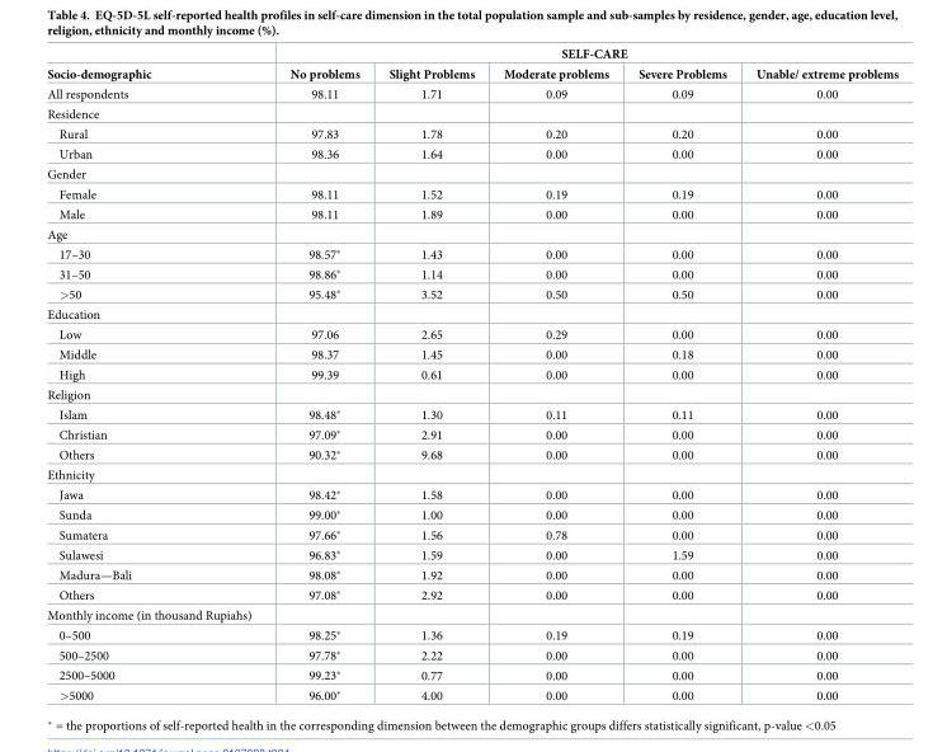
<table><thead><tr><td rowspan="2">Socio-demographic</td><td colspan="5">SELF-CARE</td></tr><tr><td>No problems</td><td>Slight Problems</td><td>Moderate problems</td><td>Severe Problems</td><td>Unable/ extreme problems</td></tr></thead><tbody><tr><td>All respondents</td><td>98.11</td><td>1.71</td><td>0.09</td><td>0.09</td><td>0.00</td></tr><tr><td colspan="6">Residence</td></tr><tr><td>Rural</td><td>97.83</td><td>1.78</td><td>0.20</td><td>0.20</td><td>0.00</td></tr><tr><td>Urban</td><td>98.36</td><td>1.64</td><td>0.00</td><td>0.00</td><td>0.00</td></tr><tr><td colspan="6">Gender</td></tr><tr><td>Female</td><td>98.11</td><td>1.52</td><td>0.19</td><td>0.19</td><td>0.00</td></tr><tr><td>Male</td><td>98.11</td><td>1.89</td><td>0.00</td><td>0.00</td><td>0.00</td></tr><tr><td colspan="6">Age</td></tr><tr><td>17–30</td><td>98.57*</td><td>1.43</td><td>0.00</td><td>0.00</td><td>0.00</td></tr><tr><td>31–50</td><td>98.86*</td><td>1.14</td><td>0.00</td><td>0.00</td><td>0.00</td></tr><tr><td>&gt;50</td><td>95.48*</td><td>3.52</td><td>0.50</td><td>0.50</td><td>0.00</td></tr><tr><td colspan="6">Education</td></tr><tr><td>Low</td><td>97.06</td><td>2.65</td><td>0.29</td><td>0.00</td><td>0.00</td></tr><tr><td>Middle</td><td>98.37</td><td>1.45</td><td>0.00</td><td>0.18</td><td>0.00</td></tr><tr><td>High</td><td>99.39</td><td>0.61</td><td>0.00</td><td>0.00</td><td>0.00</td></tr><tr><td colspan="6">Religion</td></tr><tr><td>Islam</td><td>98.48*</td><td>1.30</td><td>0.11</td><td>0.11</td><td>0.00</td></tr><tr><td>Christian</td><td>97.09*</td><td>2.91</td><td>0.00</td><td>0.00</td><td>0.00</td></tr><tr><td>Others</td><td>90.32*</td><td>9.68</td><td>0.00</td><td>0.00</td><td>0.00</td></tr><tr><td colspan="6">Ethnicity</td></tr><tr><td>Jawa</td><td>98.42*</td><td>1.58</td><td>0.00</td><td>0.00</td><td>0.00</td></tr><tr><td>Sunda</td><td>99.00*</td><td>1.00</td><td>0.00</td><td>0.00</td><td>0.00</td></tr><tr><td>Sumatera</td><td>97.66*</td><td>1.56</td><td>0.78</td><td>0.00</td><td>0.00</td></tr><tr><td>Sulawesi</td><td>96.83*</td><td>1.59</td><td>0.00</td><td>1.59</td><td>0.00</td></tr><tr><td>Madura—Bali</td><td>98.08*</td><td>1.92</td><td>0.00</td><td>0.00</td><td>0.00</td></tr><tr><td>Others</td><td>97.08*</td><td>2.92</td><td>0.00</td><td>0.00</td><td>0.00</td></tr><tr><td colspan="6">Monthly income (in thousand Rupiahs)</td></tr><tr><td>0–500</td><td>98.25*</td><td>1.36</td><td>0.19</td><td>0.19</td><td>0.00</td></tr><tr><td>500–2500</td><td>97.78*</td><td>2.22</td><td>0.00</td><td>0.00</td><td>0.00</td></tr><tr><td>2500–5000</td><td>99.23*</td><td>0.77</td><td>0.00</td><td>0.00</td><td>0.00</td></tr><tr><td>&gt;5000</td><td>96.00*</td><td>4.00</td><td>0.00</td><td>0.00</td><td>0.00</td></tr></tbody></table>